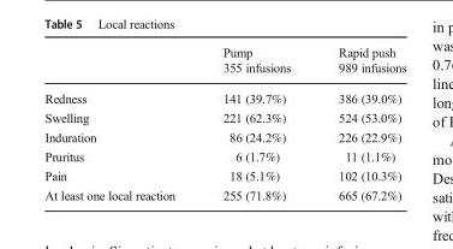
<table><thead><tr><td></td><td>Pump 355 infusions</td><td>Rapid push 989 infusions</td></tr></thead><tbody><tr><td>Redness</td><td>141 (39.7%)</td><td>386 (39.0%)</td></tr><tr><td>Swelling</td><td>221 (62.3%)</td><td>524 (53.0%)</td></tr><tr><td>Induration</td><td>86 (24.2%)</td><td>226 (22.9%)</td></tr><tr><td>Pruritus</td><td>6 (1.7%)</td><td>11 (1.1%)</td></tr><tr><td>Pain</td><td>18 (5.1%)</td><td>102 (10.3%)</td></tr><tr><td>At least one local reaction</td><td>255 (71.8%)</td><td>665 (67.2%)</td></tr></tbody></table>